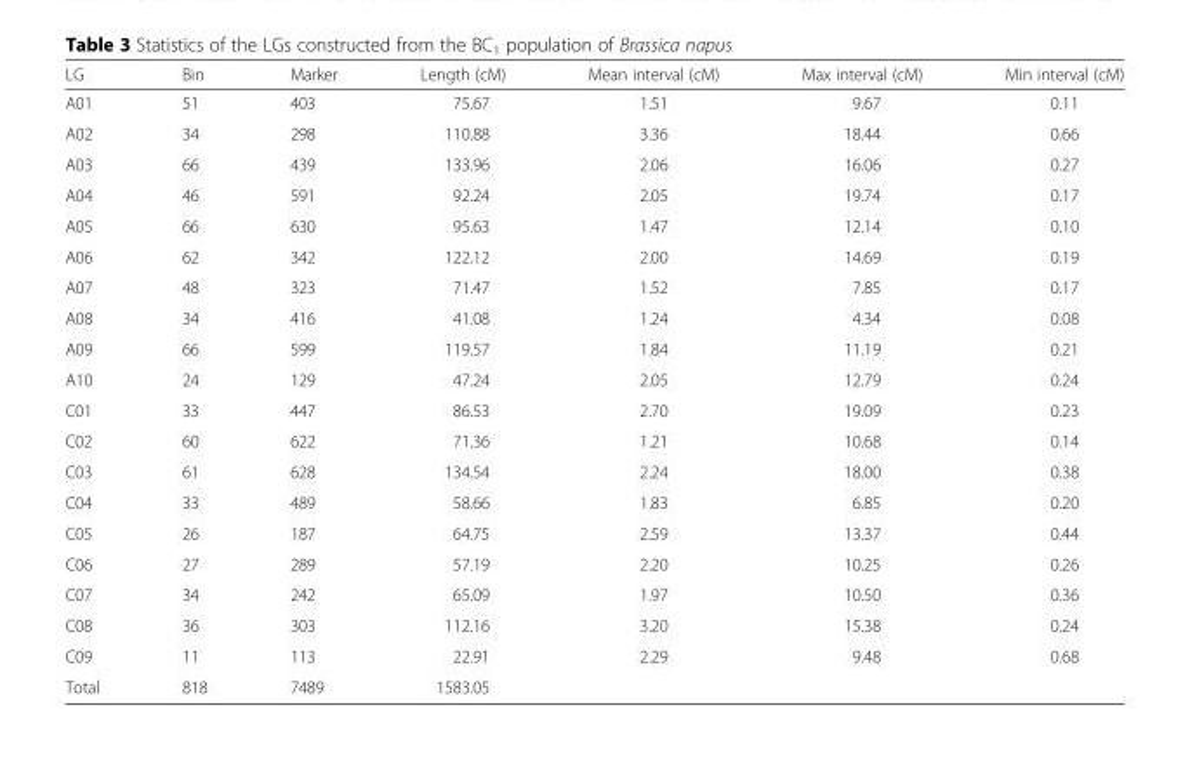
<table><thead><tr><td>LG</td><td>Bin</td><td>Marker</td><td>Length (cM)</td><td>Mean interval (cM)</td><td>Max interval (cM)</td><td>Min interval (cM)</td></tr></thead><tbody><tr><td>A01</td><td>51</td><td>403</td><td>75.67</td><td>1.51</td><td>9.67</td><td>0.11</td></tr><tr><td>A02</td><td>34</td><td>298</td><td>110.88</td><td>3.36</td><td>18.44</td><td>0.66</td></tr><tr><td>A03</td><td>66</td><td>439</td><td>133.96</td><td>2.06</td><td>16.06</td><td>0.27</td></tr><tr><td>A04</td><td>46</td><td>591</td><td>92.24</td><td>2.05</td><td>19.74</td><td>0.17</td></tr><tr><td>A05</td><td>66</td><td>630</td><td>95.63</td><td>1.47</td><td>12.14</td><td>0.10</td></tr><tr><td>A06</td><td>62</td><td>342</td><td>122.12</td><td>2.00</td><td>14.69</td><td>0.19</td></tr><tr><td>A07</td><td>48</td><td>323</td><td>71.47</td><td>1.52</td><td>7.85</td><td>0.17</td></tr><tr><td>A08</td><td>34</td><td>416</td><td>41.08</td><td>1.24</td><td>4.34</td><td>0.08</td></tr><tr><td>A09</td><td>66</td><td>599</td><td>119.57</td><td>1.84</td><td>11.19</td><td>0.21</td></tr><tr><td>A10</td><td>24</td><td>129</td><td>47.24</td><td>2.05</td><td>12.79</td><td>0.24</td></tr><tr><td>C01</td><td>33</td><td>447</td><td>86.53</td><td>2.70</td><td>19.09</td><td>0.23</td></tr><tr><td>C02</td><td>60</td><td>622</td><td>71.36</td><td>1.21</td><td>10.68</td><td>0.14</td></tr><tr><td>C03</td><td>61</td><td>628</td><td>134.54</td><td>2.24</td><td>18.00</td><td>0.38</td></tr><tr><td>C04</td><td>33</td><td>489</td><td>58.66</td><td>1.83</td><td>6.85</td><td>0.20</td></tr><tr><td>C05</td><td>26</td><td>187</td><td>64.75</td><td>2.59</td><td>13.37</td><td>0.44</td></tr><tr><td>C06</td><td>27</td><td>289</td><td>57.19</td><td>2.20</td><td>10.25</td><td>0.26</td></tr><tr><td>C07</td><td>34</td><td>242</td><td>65.09</td><td>1.97</td><td>10.50</td><td>0.36</td></tr><tr><td>C08</td><td>36</td><td>303</td><td>112.16</td><td>3.20</td><td>15.38</td><td>0.24</td></tr><tr><td>C09</td><td>11</td><td>113</td><td>22.91</td><td>2.29</td><td>9.48</td><td>0.68</td></tr><tr><td>Total</td><td>818</td><td>7489</td><td>1583.05</td><td></td><td></td><td></td></tr></tbody></table>